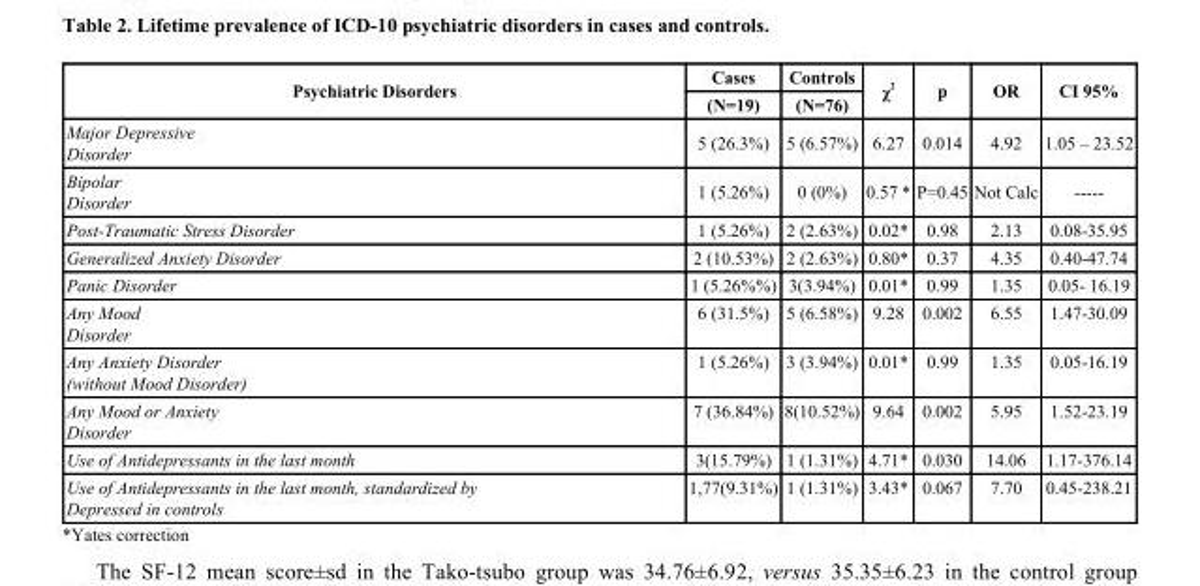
<table><thead><tr><td rowspan="2">Psychiatric Disorders</td><td rowspan="2">Cases (N=19)</td><td rowspan="2">Controls (N=76)</td><td rowspan="2">χ <sup>2</sup></td><td rowspan="2">p</td><td rowspan="2">OR</td><td rowspan="2">CI 95%</td></tr><tr></tr></thead><tbody><tr><td>Major Depressive Disorder</td><td>5 (26.3%)</td><td>5 (6.57%)</td><td>6.27</td><td>0.014</td><td>4.92</td><td>1.05 – 23.52</td></tr><tr><td>Bipolar Disorder</td><td>1 (5.26%)</td><td>0 (0%)</td><td>0.57 *</td><td>P=0.45</td><td>Not Calc</td><td>-----</td></tr><tr><td>Post-Traumatic Stress Disorder</td><td>1 (5.26%)</td><td>2 (2.63%)</td><td>0.02*</td><td>0.98</td><td>2.13</td><td>0.08-35.95</td></tr><tr><td>Generalized Anxiety Disorder</td><td>2 (10.53%)</td><td>2 (2.63%)</td><td>0.80*</td><td>0.37</td><td>4.35</td><td>0.40-47.74</td></tr><tr><td>Panic Disorder</td><td>1 (5.26%%)</td><td>3(3.94%)</td><td>0.01*</td><td>0.99</td><td>1.35</td><td>0.05- 16.19</td></tr><tr><td>Any Mood Disorder</td><td>6 (31.5%)</td><td>5 (6.58%)</td><td>9.28</td><td>0.002</td><td>6.55</td><td>1.47-30.09</td></tr><tr><td>Any Anxiety Disorder (without Mood Disorder)</td><td>1 (5.26%)</td><td>3 (3.94%)</td><td>0.01*</td><td>0.99</td><td>1.35</td><td>0.05-16.19</td></tr><tr><td>Any Mood or Anxiety Disorder</td><td>7 (36.84%)</td><td>8(10.52%)</td><td>9.64</td><td>0.002</td><td>5.95</td><td>1.52-23.19</td></tr><tr><td>Use of Antidepressants in the last month</td><td>3(15.79%)</td><td>1 (1.31%)</td><td>4.71*</td><td>0.030</td><td>14.06</td><td>1.17-376.14</td></tr><tr><td>Use of Antidepressants in the last month, standardized by Depressed in controls</td><td>1,77(9.31%)</td><td>1 (1.31%)</td><td>3.43*</td><td>0.067</td><td>7.70</td><td>0.45-238.21</td></tr></tbody></table>